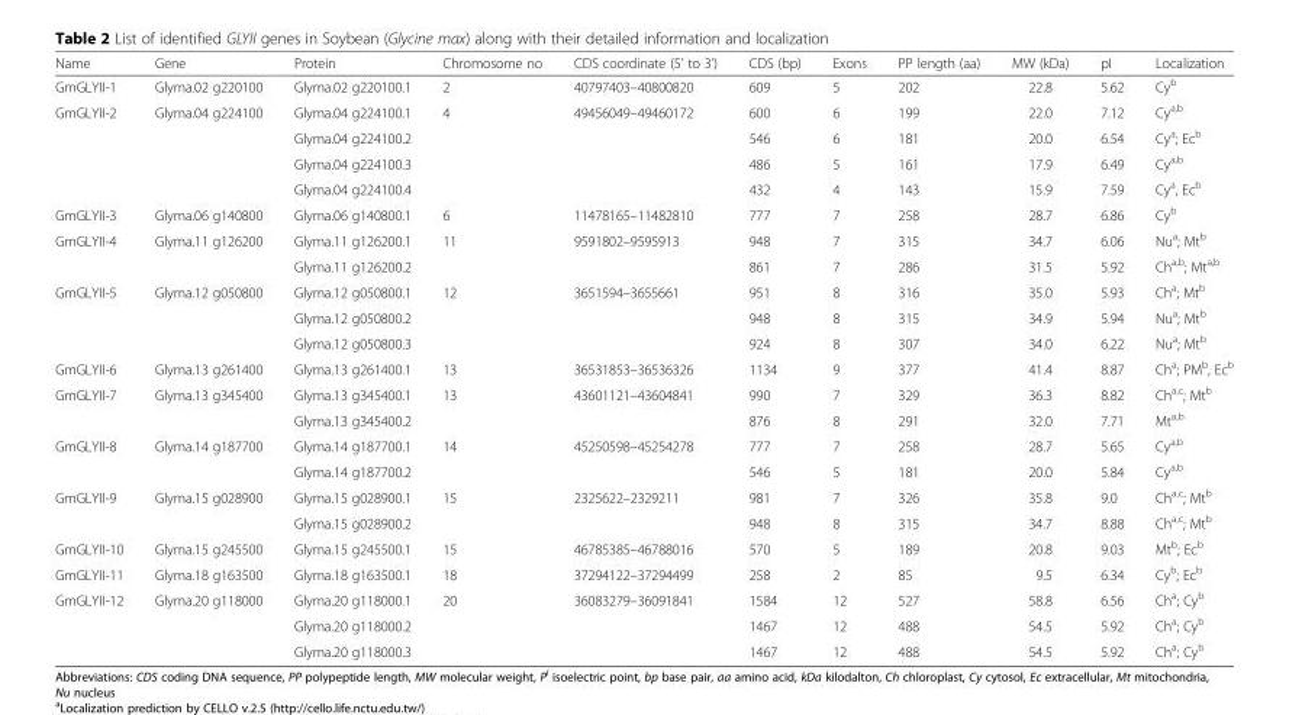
<table><thead><tr><td>Name</td><td>Gene</td><td>Protein</td><td>Chromosome no</td><td>CDS coordinate (5’ to 3’)</td><td>CDS (bp)</td><td>Exons</td><td>PP length (aa)</td><td>MW (kDa)</td><td>pI</td><td>Localization</td></tr></thead><tbody><tr><td>GmGLYII-1</td><td>Glyma.02 g220100</td><td>Glyma.02 g220100.1</td><td>2</td><td>40797403–40800820</td><td>609</td><td>5</td><td>202</td><td>22.8</td><td>5.62</td><td>Cy<sup>b</sup></td></tr><tr><td rowspan="4">GmGLYII-2</td><td rowspan="4">Glyma.04 g224100</td><td>Glyma.04 g224100.1</td><td rowspan="4">4</td><td rowspan="4">49456049–49460172</td><td>600</td><td>6</td><td>199</td><td>22.0</td><td>7.12</td><td>Cy<sup>a,b</sup></td></tr><tr><td>Glyma.04 g224100.2</td><td>546</td><td>6</td><td>181</td><td>20.0</td><td>6.54</td><td>Cy<sup>a</sup>; Ec<sup>b</sup></td></tr><tr><td>Glyma.04 g224100.3</td><td>486</td><td>5</td><td>161</td><td>17.9</td><td>6.49</td><td>Cy<sup>a,b</sup></td></tr><tr><td>Glyma.04 g224100.4</td><td>432</td><td>4</td><td>143</td><td>15.9</td><td>7.59</td><td>Cy<sup>a</sup>, Ec<sup>b</sup></td></tr><tr><td>GmGLYII-3</td><td>Glyma.06 g140800</td><td>Glyma.06 g140800.1</td><td>6</td><td>11478165–11482810</td><td>777</td><td>7</td><td>258</td><td>28.7</td><td>6.86</td><td>Cy<sup>b</sup></td></tr><tr><td rowspan="2">GmGLYII-4</td><td rowspan="2">Glyma.11 g126200</td><td>Glyma.11 g126200.1</td><td rowspan="2">11</td><td rowspan="2">9591802–9595913</td><td>948</td><td>7</td><td>315</td><td>34.7</td><td>6.06</td><td>Nu<sup>a</sup>; Mt<sup>b</sup></td></tr><tr><td>Glyma.11 g126200.2</td><td>861</td><td>7</td><td>286</td><td>31.5</td><td>5.92</td><td>Ch<sup>a,b</sup>; Mt<sup>a,b</sup></td></tr><tr><td rowspan="3">GmGLYII-5</td><td rowspan="3">Glyma.12 g050800</td><td>Glyma.12 g050800.1</td><td rowspan="3">12</td><td rowspan="3">3651594–3655661</td><td>951</td><td>8</td><td>316</td><td>35.0</td><td>5.93</td><td>Ch<sup>a</sup>; Mt<sup>b</sup></td></tr><tr><td>Glyma.12 g050800.2</td><td>948</td><td>8</td><td>315</td><td>34.9</td><td>5.94</td><td>Nu<sup>a</sup>; Mt<sup>b</sup></td></tr><tr><td>Glyma.12 g050800.3</td><td>924</td><td>8</td><td>307</td><td>34.0</td><td>6.22</td><td>Nu<sup>a</sup>; Mt<sup>b</sup></td></tr><tr><td>GmGLYII-6</td><td>Glyma.13 g261400</td><td>Glyma.13 g261400.1</td><td>13</td><td>36531853–36536326</td><td>1134</td><td>9</td><td>377</td><td>41.4</td><td>8.87</td><td>Ch<sup>a</sup>; PM<sup>b</sup>, Ec<sup>b</sup></td></tr><tr><td rowspan="2">GmGLYII-7</td><td rowspan="2">Glyma.13 g345400</td><td>Glyma.13 g345400.1</td><td rowspan="2">13</td><td rowspan="2">43601121–43604841</td><td>990</td><td>7</td><td>329</td><td>36.3</td><td>8.82</td><td>Ch<sup>a,c</sup>; Mt<sup>b</sup></td></tr><tr><td>Glyma.13 g345400.2</td><td>876</td><td>8</td><td>291</td><td>32.0</td><td>7.71</td><td>Mt<sup>a,b</sup></td></tr><tr><td rowspan="2">GmGLYII-8</td><td rowspan="2">Glyma.14 g187700</td><td>Glyma.14 g187700.1</td><td rowspan="2">14</td><td rowspan="2">45250598–45254278</td><td>777</td><td>7</td><td>258</td><td>28.7</td><td>5.65</td><td>Cy<sup>a,b</sup></td></tr><tr><td>Glyma.14 g187700.2</td><td>546</td><td>5</td><td>181</td><td>20.0</td><td>5.84</td><td>Cy<sup>a,b</sup></td></tr><tr><td rowspan="2">GmGLYII-9</td><td rowspan="2">Glyma.15 g028900</td><td>Glyma.15 g028900.1</td><td rowspan="2">15</td><td rowspan="2">2325622–2329211</td><td>981</td><td>7</td><td>326</td><td>35.8</td><td>9.0</td><td>Ch<sup>a,c</sup>; Mt<sup>b</sup></td></tr><tr><td>Glyma.15 g028900.2</td><td>948</td><td>8</td><td>315</td><td>34.7</td><td>8.88</td><td>Ch<sup>a,c</sup>; Mt<sup>b</sup></td></tr><tr><td>GmGLYII-10</td><td>Glyma.15 g245500</td><td>Glyma.15 g245500.1</td><td>15</td><td>46785385–46788016</td><td>570</td><td>5</td><td>189</td><td>20.8</td><td>9.03</td><td>Mt<sup>b</sup>; Ec<sup>b</sup></td></tr><tr><td>GmGLYII-11</td><td>Glyma.18 g163500</td><td>Glyma.18 g163500.1</td><td>18</td><td>37294122–37294499</td><td>258</td><td>2</td><td>85</td><td>9.5</td><td>6.34</td><td>Cy<sup>b</sup>; Ec<sup>b</sup></td></tr><tr><td rowspan="3">GmGLYII-12</td><td rowspan="3">Glyma.20 g118000</td><td>Glyma.20 g118000.1</td><td rowspan="3">20</td><td rowspan="3">36083279–36091841</td><td>1584</td><td>12</td><td>527</td><td>58.8</td><td>6.56</td><td>Ch<sup>a</sup>; Cy<sup>b</sup></td></tr><tr><td>Glyma.20 g118000.2</td><td>1467</td><td>12</td><td>488</td><td>54.5</td><td>5.92</td><td>Ch<sup>a</sup>; Cy<sup>b</sup></td></tr><tr><td>Glyma.20 g118000.3</td><td>1467</td><td>12</td><td>488</td><td>54.5</td><td>5.92</td><td>Ch<sup>a</sup>; Cy<sup>b</sup></td></tr></tbody></table>